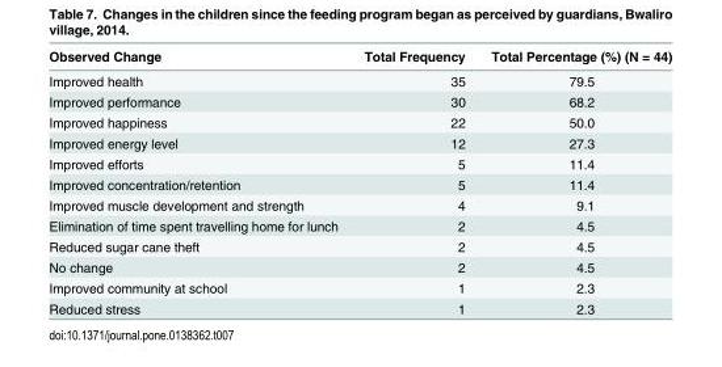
<table><thead><tr><td>Observed Change</td><td>Total Frequency</td><td>Total Percentage (%) (N = 44)</td></tr></thead><tbody><tr><td>Improved health</td><td>35</td><td>79.5</td></tr><tr><td>Improved performance</td><td>30</td><td>68.2</td></tr><tr><td>Improved happiness</td><td>22</td><td>50.0</td></tr><tr><td>Improved energy level</td><td>12</td><td>27.3</td></tr><tr><td>Improved efforts</td><td>5</td><td>11.4</td></tr><tr><td>Improved concentration/retention</td><td>5</td><td>11.4</td></tr><tr><td>Improved muscle development and strength</td><td>4</td><td>9.1</td></tr><tr><td>Elimination of time spent travelling home for lunch</td><td>2</td><td>4.5</td></tr><tr><td>Reduced sugar cane theft</td><td>2</td><td>4.5</td></tr><tr><td>No change</td><td>2</td><td>4.5</td></tr><tr><td>Improved community at school</td><td>1</td><td>2.3</td></tr><tr><td>Reduced stress</td><td>1</td><td>2.3</td></tr></tbody></table>